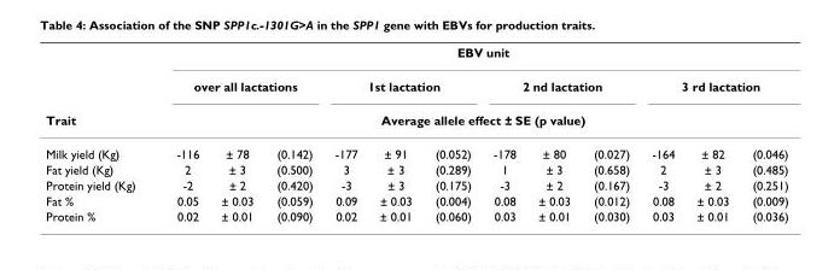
<table><thead><tr><td rowspan="4">Trait Milk yield (Kg)</td><td colspan="12">EBV unit</td></tr><tr><td colspan="3">over all lactations</td><td colspan="3">1st lactation</td><td colspan="3">2 nd lactation</td><td colspan="3">3 rd lactation</td></tr><tr><td colspan="12">Average allele effect ± SE (p value)</td></tr><tr><td>-116</td><td>± 78</td><td>(0.142)</td><td>-177</td><td>± 91</td><td>(0.052)</td><td>-178</td><td>± 80</td><td>(0.027)</td><td>-164</td><td>± 82</td><td>(0.046)</td></tr></thead><tbody><tr><td>Fat yield (Kg)</td><td>2</td><td>± 3</td><td>(0.500)</td><td>3</td><td>± 3</td><td>(0.289)</td><td>1</td><td>± 3</td><td>(0.658)</td><td>2</td><td>± 3</td><td>(0.485)</td></tr><tr><td>Protein yield (Kg)</td><td>-2</td><td>± 2</td><td>(0.420)</td><td>-3</td><td>± 3</td><td>(0.175)</td><td>-3</td><td>± 2</td><td>(0.167)</td><td>-3</td><td>± 2</td><td>(0.251)</td></tr><tr><td>Fat %</td><td>0.05</td><td>± 0.03</td><td>(0.059)</td><td>0.09</td><td>± 0.03</td><td>(0.004)</td><td>0.08</td><td>± 0.03</td><td>(0.012)</td><td>0.08</td><td>± 0.03</td><td>(0.009)</td></tr><tr><td>Protein %</td><td>0.02</td><td>± 0.01</td><td>(0.090)</td><td>0.02</td><td>± 0.01</td><td>(0.060)</td><td>0.03</td><td>± 0.01</td><td>(0.030)</td><td>0.03</td><td>± 0.01</td><td>(0.036)</td></tr></tbody></table>